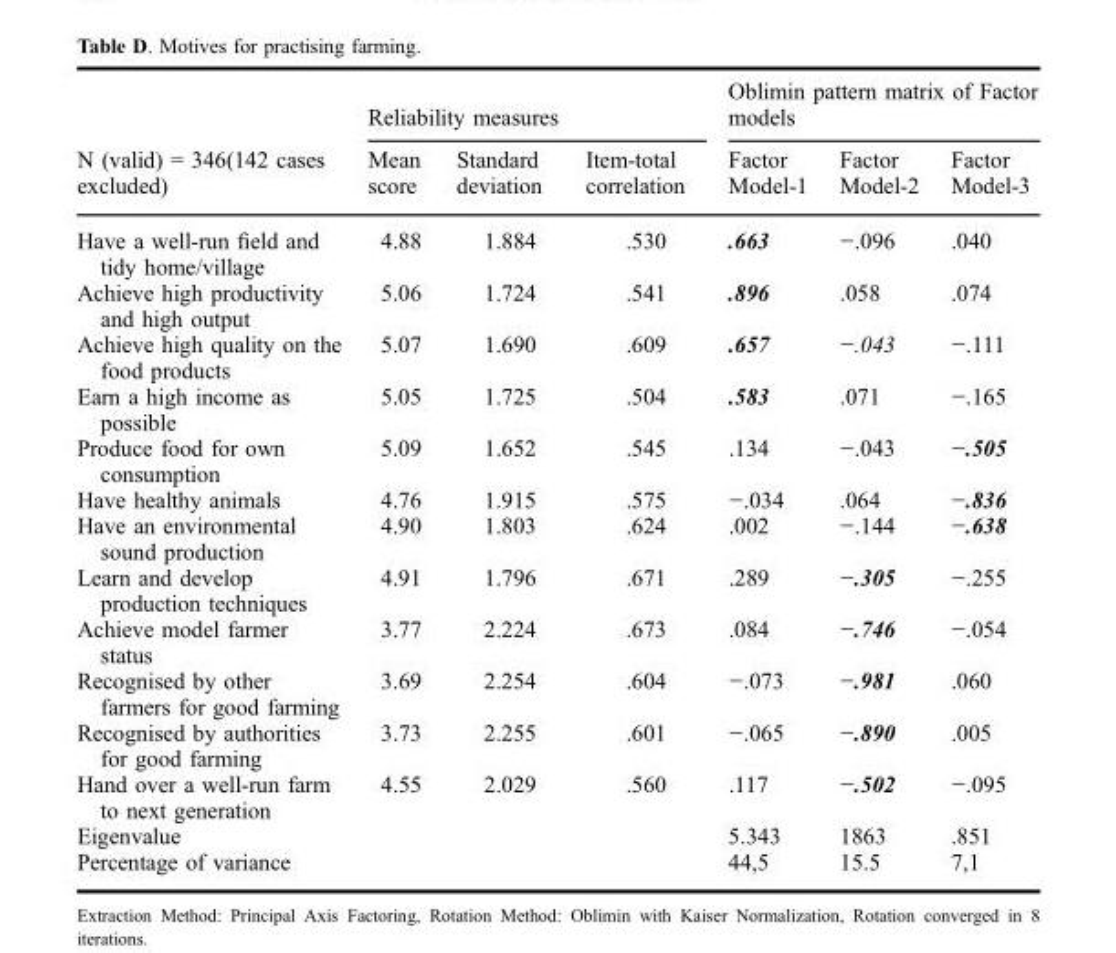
<table><thead><tr><td rowspan="2">N (valid) = 346(142 cases excluded)</td><td colspan="3">Reliability measures</td><td colspan="3">Oblimin pattern matrix of Factor models</td></tr><tr><td>Mean score</td><td>Standard deviation</td><td>Item-total correlation</td><td>Factor Model-1</td><td>Factor Model-2</td><td>Factor Model-3</td></tr></thead><tbody><tr><td>Have a well-run field and tidy home/village</td><td>4.88</td><td>1.884</td><td>.530</td><td>.663</td><td>−.096</td><td>.040</td></tr><tr><td>Achieve high productivity and high output</td><td>5.06</td><td>1.724</td><td>.541</td><td>.896</td><td>.058</td><td>.074</td></tr><tr><td>Achieve high quality on the food products</td><td>5.07</td><td>1.690</td><td>.609</td><td>.657</td><td>−.043</td><td>−.111</td></tr><tr><td>Earn a high income as possible</td><td>5.05</td><td>1.725</td><td>.504</td><td>.583</td><td>.071</td><td>−.165</td></tr><tr><td>Produce food for own consumption</td><td>5.09</td><td>1.652</td><td>.545</td><td>.134</td><td>−.043</td><td>−.505</td></tr><tr><td>Have healthy animals</td><td>4.76</td><td>1.915</td><td>.575</td><td>−.034</td><td>.064</td><td>−.836</td></tr><tr><td>Have an environmental sound production</td><td>4.90</td><td>1.803</td><td>.624</td><td>.002</td><td>−.144</td><td>−.638</td></tr><tr><td>Learn and develop production techniques</td><td>4.91</td><td>1.796</td><td>.671</td><td>.289</td><td>−.305</td><td>−.255</td></tr><tr><td>Achieve model farmer status</td><td>3.77</td><td>2.224</td><td>.673</td><td>.084</td><td>−.746</td><td>−.054</td></tr><tr><td>Recognised by other farmers for good farming</td><td>3.69</td><td>2.254</td><td>.604</td><td>−.073</td><td>−.981</td><td>.060</td></tr><tr><td>Recognised by authorities for good farming</td><td>3.73</td><td>2.255</td><td>.601</td><td>−.065</td><td>−.890</td><td>.005</td></tr><tr><td>Hand over a well-run farm to next generation</td><td>4.55</td><td>2.029</td><td>.560</td><td>.117</td><td>−.502</td><td>−.095</td></tr><tr><td>Eigenvalue</td><td></td><td></td><td></td><td>5.343</td><td>1863</td><td>.851</td></tr><tr><td>Percentage of variance</td><td></td><td></td><td></td><td>44,5</td><td>15.5</td><td>7,1</td></tr></tbody></table>